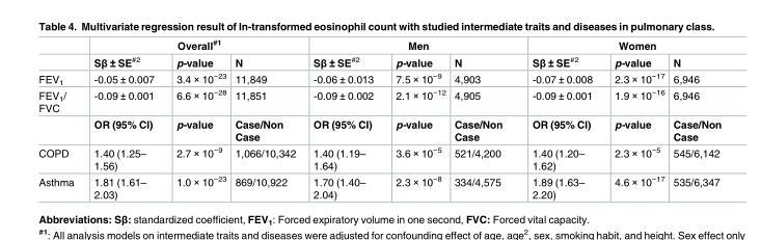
<table><thead><tr><td rowspan="2"></td><td colspan="3">Overall<sup>#1</sup></td><td colspan="3">Men</td><td colspan="3">Women</td></tr><tr><td>Sβ ± SE<sup>#2</sup></td><td>p-value</td><td>N</td><td>Sβ ± SE<sup>#2</sup></td><td>p-value</td><td>N</td><td>Sβ ± SE<sup>#2</sup></td><td>p-value</td><td>N</td></tr></thead><tbody><tr><td>FEV<sub>1</sub></td><td>-0.05 ± 0.007</td><td>3.4 × 10<sup>−23</sup></td><td>11,849</td><td>-0.06 ± 0.013</td><td>7.5 × 10<sup>−9</sup></td><td>4,903</td><td>-0.07 ± 0.008</td><td>2.3 × 10<sup>−17</sup></td><td>6,946</td></tr><tr><td rowspan="2">FEV<sub>1</sub>/ FVC</td><td>-0.09 ± 0.001</td><td>6.6 × 10<sup>−28</sup></td><td>11,851</td><td>-0.09 ± 0.002</td><td>2.1 × 10<sup>−12</sup></td><td>4,905</td><td>-0.09 ± 0.001</td><td>1.9 × 10<sup>−16</sup></td><td>6,946</td></tr><tr><td>OR (95% CI)</td><td>p-value</td><td>Case/Non Case</td><td>OR (95% CI)</td><td>p-value</td><td>Case/Non Case</td><td>OR (95% CI)</td><td>p-value</td><td>Case/Non Case</td></tr><tr><td>COPD</td><td>1.40 (1.25– 1.56)</td><td>2.7 × 10<sup>−9</sup></td><td>1,066/10,342</td><td>1.40 (1.19– 1.64)</td><td>3.6 × 10<sup>−5</sup></td><td>521/4,200</td><td>1.40 (1.20– 1.62)</td><td>2.3 × 10<sup>−5</sup></td><td>545/6,142</td></tr><tr><td>Asthma</td><td>1.81 (1.61– 2.03)</td><td>1.0 × 10<sup>−23</sup></td><td>869/10,922</td><td>1.70 (1.40– 2.04)</td><td>2.3 × 10<sup>−8</sup></td><td>334/4,575</td><td>1.89 (1.63– 2.20)</td><td>4.6 × 10<sup>−17</sup></td><td>535/6,347</td></tr></tbody></table>